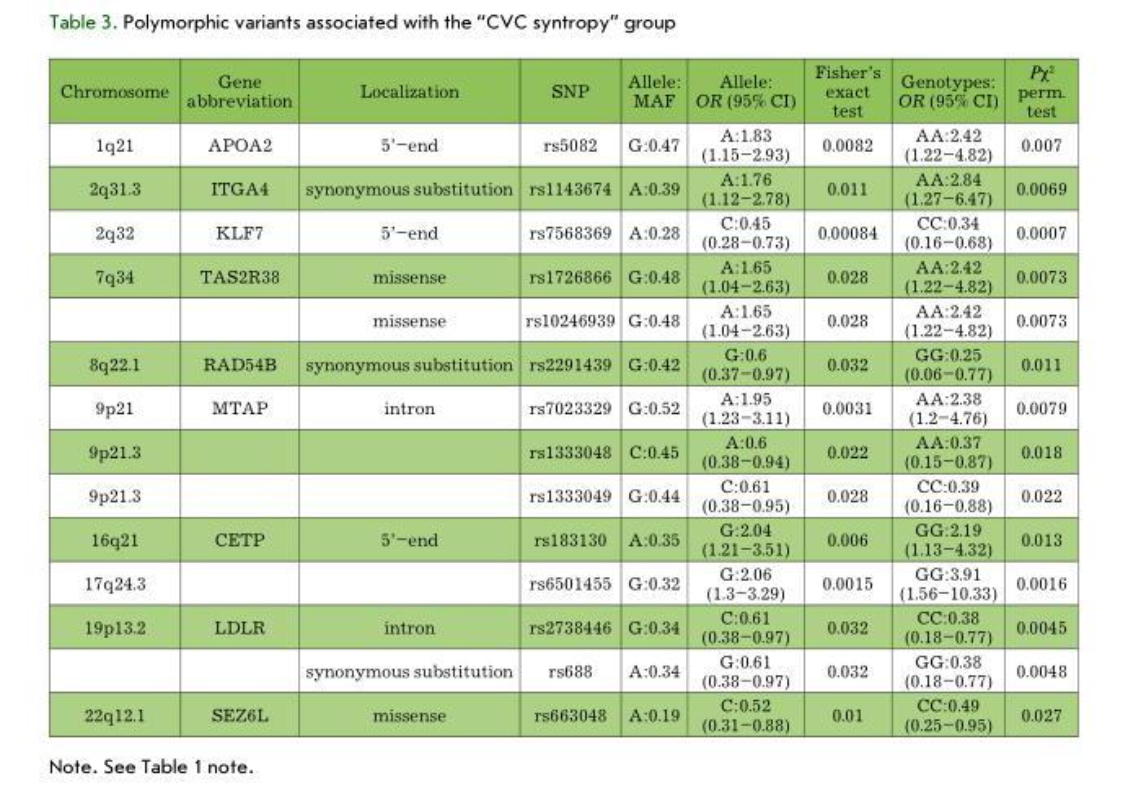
<table><thead><tr><td>Chromosome</td><td>Gene abbreviation</td><td>Localization</td><td>SNP</td><td>Allele: MAF</td><td>Allele: OR (95% CI)</td><td>Fisher’s exact test</td><td>Genotypes: OR (95% CI)</td><td>Pχ2 perm. test</td></tr></thead><tbody><tr><td>1q21</td><td>APOA2</td><td>5’–end</td><td>rs5082</td><td>G:0.47</td><td>A:1.83 (1.15–2.93)</td><td>0.0082</td><td>AA:2.42 (1.22–4.82)</td><td>0.007</td></tr><tr><td>2q31.3</td><td>ITGA4</td><td>synonymous substitution</td><td>rs1143674</td><td>A:0.39</td><td>A:1.76 (1.12–2.78)</td><td>0.011</td><td>AA:2.84 (1.27–6.47)</td><td>0.0069</td></tr><tr><td>2q32</td><td>KLF7</td><td>5’–end</td><td>rs7568369</td><td>A:0.28</td><td>C:0.45 (0.28–0.73)</td><td>0.00084</td><td>CC:0.34 (0.16–0.68)</td><td>0.0007</td></tr><tr><td rowspan="2">7q34</td><td>TAS2R38</td><td>missense</td><td>rs1726866</td><td>G:0.48</td><td>A:1.65 (1.04–2.63)</td><td>0.028</td><td>AA:2.42 (1.22–4.82)</td><td>0.0073</td></tr><tr><td></td><td>missense</td><td>rs10246939</td><td>G:0.48</td><td>A:1.65 (1.04–2.63)</td><td>0.028</td><td>AA:2.42 (1.22–4.82)</td><td>0.0073</td></tr><tr><td>8q22.1</td><td>RAD54B</td><td>synonymous substitution</td><td>rs2291439</td><td>G:0.42</td><td>G:0.6 (0.37–0.97)</td><td>0.032</td><td>GG:0.25 (0.06–0.77)</td><td>0.011</td></tr><tr><td>9p21</td><td>MTAP</td><td>intron</td><td>rs7023329</td><td>G:0.52</td><td>A:1.95 (1.23–3.11)</td><td>0.0031</td><td>AA:2.38 (1.2–4.76)</td><td>0.0079</td></tr><tr><td>9p21.3</td><td></td><td></td><td>rs1333048</td><td>C:0.45</td><td>A:0.6 (0.38–0.94)</td><td>0.022</td><td>AA:0.37 (0.15–0.87)</td><td>0.018</td></tr><tr><td>9p21.3</td><td></td><td></td><td>rs1333049</td><td>G:0.44</td><td>C:0.61 (0.38–0.95)</td><td>0.028</td><td>CC:0.39 (0.16–0.88)</td><td>0.022</td></tr><tr><td>16q21</td><td>CETP</td><td>5’–end</td><td>rs183130</td><td>A:0.35</td><td>G:2.04 (1.21–3.51)</td><td>0.006</td><td>GG:2.19 (1.13–4.32)</td><td>0.013</td></tr><tr><td>17q24.3</td><td></td><td></td><td>rs6501455</td><td>G:0.32</td><td>G:2.06 (1.3–3.29)</td><td>0.0015</td><td>GG:3.91 (1.56–10.33)</td><td>0.0016</td></tr><tr><td rowspan="2">19p13.2</td><td>LDLR</td><td>intron</td><td>rs2738446</td><td>G:0.34</td><td>C:0.61 (0.38–0.97)</td><td>0.032</td><td>CC:0.38 (0.18–0.77)</td><td>0.0045</td></tr><tr><td></td><td>synonymous substitution</td><td>rs688</td><td>A:0.34</td><td>G:0.61 (0.38–0.97)</td><td>0.032</td><td>GG:0.38 (0.18–0.77)</td><td>0.0048</td></tr><tr><td>22q12.1</td><td>SEZ6L</td><td>missense</td><td>rs663048</td><td>A:0.19</td><td>C:0.52 (0.31–0.88)</td><td>0.01</td><td>CC:0.49 (0.25–0.95)</td><td>0.027</td></tr></tbody></table>